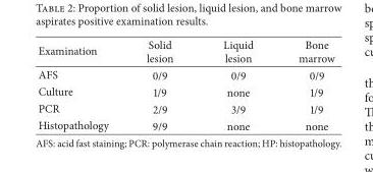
<table><thead><tr><td>Examination</td><td>Solid lesion</td><td>Liquid lesion</td><td>Bone marrow</td></tr></thead><tbody><tr><td>AFS</td><td>0/9</td><td>0/9</td><td>0/9</td></tr><tr><td>Culture</td><td>1/9</td><td>none</td><td>1/9</td></tr><tr><td>PCR</td><td>2/9</td><td>3/9</td><td>1/9</td></tr><tr><td>Histopathology</td><td>9/9</td><td>none</td><td>none</td></tr></tbody></table>